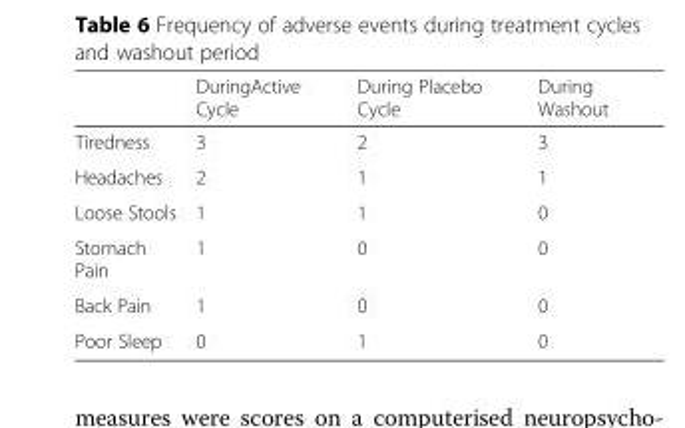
<table><thead><tr><td></td><td>DuringActive Cycle</td><td>During Placebo Cycle</td><td>During Washout</td></tr></thead><tbody><tr><td>Tiredness</td><td>3</td><td>2</td><td>3</td></tr><tr><td>Headaches</td><td>2</td><td>1</td><td>1</td></tr><tr><td>Loose Stools</td><td>1</td><td>1</td><td>0</td></tr><tr><td>Stomach Pain</td><td>1</td><td>0</td><td>0</td></tr><tr><td>Back Pain</td><td>1</td><td>0</td><td>0</td></tr><tr><td>Poor Sleep</td><td>0</td><td>1</td><td>0</td></tr></tbody></table>